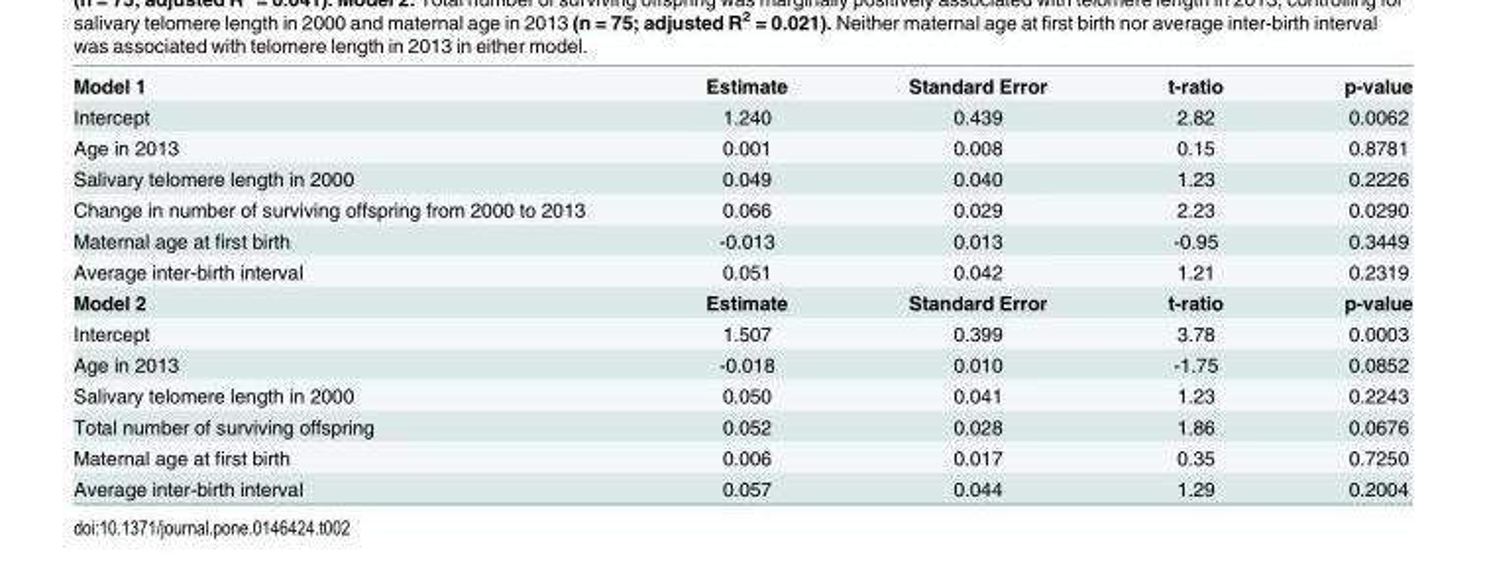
<table><tbody><tr><td>Model 1</td><td>Estimate</td><td>Standard Error</td><td>t-ratio</td><td>p-value</td></tr><tr><td>Intercept</td><td>1.240</td><td>0.439</td><td>2.82</td><td>0.0062</td></tr><tr><td>Age in 2013</td><td>0.001</td><td>0.008</td><td>0.15</td><td>0.8781</td></tr><tr><td>Salivary telomere length in 2000</td><td>0.049</td><td>0.040</td><td>1.23</td><td>0.2226</td></tr><tr><td>Change in number of surviving offspring from 2000 to 2013</td><td>0.066</td><td>0.029</td><td>2.23</td><td>0.0290</td></tr><tr><td>Maternal age at first birth</td><td>-0.013</td><td>0.013</td><td>-0.95</td><td>0.3449</td></tr><tr><td>Average inter-birth interval</td><td>0.051</td><td>0.042</td><td>1.21</td><td>0.2319</td></tr><tr><td>Model 2</td><td>Estimate</td><td>Standard Error</td><td>t-ratio</td><td>p-value</td></tr><tr><td>Intercept</td><td>1.507</td><td>0.399</td><td>3.78</td><td>0.0003</td></tr><tr><td>Age in 2013</td><td>-0.018</td><td>0.010</td><td>-1.75</td><td>0.0852</td></tr><tr><td>Salivary telomere length in 2000</td><td>0.050</td><td>0.041</td><td>1.23</td><td>0.2243</td></tr><tr><td>Total number of surviving offspring</td><td>0.052</td><td>0.028</td><td>1.86</td><td>0.0676</td></tr><tr><td>Maternal age at first birth</td><td>0.006</td><td>0.017</td><td>0.35</td><td>0.7250</td></tr><tr><td>Average inter-birth interval</td><td>0.057</td><td>0.044</td><td>1.29</td><td>0.2004</td></tr></tbody></table>